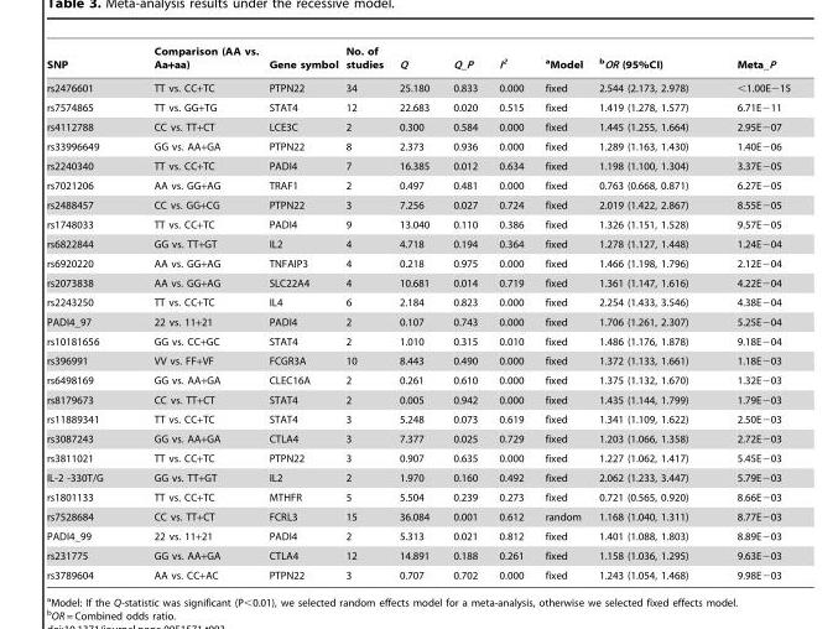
<table><thead><tr><td>SNP</td><td>Comparison (AA vs. Aa+aa)</td><td>Gene symbol</td><td>No. of studies</td><td>Q</td><td>Q_P</td><td>I<sup>2</sup></td><td>aModel</td><td>bOR (95%CI)</td><td>Meta_P</td></tr></thead><tbody><tr><td>rs2476601</td><td>TT vs. CC+TC</td><td>PTPN22</td><td>34</td><td>25.180</td><td>0.833</td><td>0.000</td><td>fixed</td><td>2.544 (2.173, 2.978)</td><td>&lt;1.00E−15</td></tr><tr><td>rs7574865</td><td>TT vs. GG+TG</td><td>STAT4</td><td>12</td><td>22.683</td><td>0.020</td><td>0.515</td><td>fixed</td><td>1.419 (1.278, 1.577)</td><td>6.71E−11</td></tr><tr><td>rs4112788</td><td>CC vs. TT+CT</td><td>LCE3C</td><td>2</td><td>0.300</td><td>0.584</td><td>0.000</td><td>fixed</td><td>1.445 (1.255, 1.664)</td><td>2.95E−07</td></tr><tr><td>rs33996649</td><td>GG vs. AA+GA</td><td>PTPN22</td><td>8</td><td>2.373</td><td>0.936</td><td>0.000</td><td>fixed</td><td>1.289 (1.163, 1.430)</td><td>1.40E−06</td></tr><tr><td>rs2240340</td><td>TT vs. CC+TC</td><td>PADI4</td><td>7</td><td>16.385</td><td>0.012</td><td>0.634</td><td>fixed</td><td>1.198 (1.100, 1.304)</td><td>3.37E−05</td></tr><tr><td>rs7021206</td><td>AA vs. GG+AG</td><td>TRAF1</td><td>2</td><td>0.497</td><td>0.481</td><td>0.000</td><td>fixed</td><td>0.763 (0.668, 0.871)</td><td>6.27E−05</td></tr><tr><td>rs2488457</td><td>CC vs. GG+CG</td><td>PTPN22</td><td>3</td><td>7.256</td><td>0.027</td><td>0.724</td><td>fixed</td><td>2.019 (1.422, 2.867)</td><td>8.55E−05</td></tr><tr><td>rs1748033</td><td>TT vs. CC+TC</td><td>PADI4</td><td>9</td><td>13.040</td><td>0.110</td><td>0.386</td><td>fixed</td><td>1.326 (1.151, 1.528)</td><td>9.57E−05</td></tr><tr><td>rs6822844</td><td>GG vs. TT+GT</td><td>IL2</td><td>4</td><td>4.718</td><td>0.194</td><td>0.364</td><td>fixed</td><td>1.278 (1.127, 1.448)</td><td>1.24E−04</td></tr><tr><td>rs6920220</td><td>AA vs. GG+AG</td><td>TNFAIP3</td><td>4</td><td>0.218</td><td>0.975</td><td>0.000</td><td>fixed</td><td>1.466 (1.198, 1.796)</td><td>2.12E−04</td></tr><tr><td>rs2073838</td><td>AA vs. GG+AG</td><td>SLC22A4</td><td>4</td><td>10.681</td><td>0.014</td><td>0.719</td><td>fixed</td><td>1.361 (1.147, 1.616)</td><td>4.22E−04</td></tr><tr><td>rs2243250</td><td>TT vs. CC+TC</td><td>IL4</td><td>6</td><td>2.184</td><td>0.823</td><td>0.000</td><td>fixed</td><td>2.254 (1.433, 3.546)</td><td>4.38E−04</td></tr><tr><td>PADI4_97</td><td>22 vs. 11+21</td><td>PADI4</td><td>2</td><td>0.107</td><td>0.743</td><td>0.000</td><td>fixed</td><td>1.706 (1.261, 2.307)</td><td>5.25E−04</td></tr><tr><td>rs10181656</td><td>GG vs. CC+GC</td><td>STAT4</td><td>2</td><td>1.010</td><td>0.315</td><td>0.010</td><td>fixed</td><td>1.486 (1.176, 1.878)</td><td>9.18E−04</td></tr><tr><td>rs396991</td><td>VV vs. FF+VF</td><td>FCGR3A</td><td>10</td><td>8.443</td><td>0.490</td><td>0.000</td><td>fixed</td><td>1.372 (1.133, 1.661)</td><td>1.18E−03</td></tr><tr><td>rs6498169</td><td>GG vs. AA+GA</td><td>CLEC16A</td><td>2</td><td>0.261</td><td>0.610</td><td>0.000</td><td>fixed</td><td>1.375 (1.132, 1.670)</td><td>1.32E−03</td></tr><tr><td>rs8179673</td><td>CC vs. TT+CT</td><td>STAT4</td><td>2</td><td>0.005</td><td>0.942</td><td>0.000</td><td>fixed</td><td>1.435 (1.144, 1.799)</td><td>1.79E−03</td></tr><tr><td>rs11889341</td><td>TT vs. CC+TC</td><td>STAT4</td><td>3</td><td>5.248</td><td>0.073</td><td>0.619</td><td>fixed</td><td>1.341 (1.109, 1.622)</td><td>2.50E−03</td></tr><tr><td>rs3087243</td><td>GG vs. AA+GA</td><td>CTLA4</td><td>3</td><td>7.377</td><td>0.025</td><td>0.729</td><td>fixed</td><td>1.203 (1.066, 1.358)</td><td>2.72E−03</td></tr><tr><td>rs3811021</td><td>TT vs. CC+TC</td><td>PTPN22</td><td>3</td><td>0.907</td><td>0.635</td><td>0.000</td><td>fixed</td><td>1.227 (1.062, 1.417)</td><td>5.45E−03</td></tr><tr><td>IL-2 -330T/G</td><td>GG vs. TT+GT</td><td>IL2</td><td>2</td><td>1.970</td><td>0.160</td><td>0.492</td><td>fixed</td><td>2.062 (1.233, 3.447)</td><td>5.79E−03</td></tr><tr><td>rs1801133</td><td>TT vs. CC+TC</td><td>MTHFR</td><td>5</td><td>5.504</td><td>0.239</td><td>0.273</td><td>fixed</td><td>0.721 (0.565, 0.920)</td><td>8.66E−03</td></tr><tr><td>rs7528684</td><td>CC vs. TT+CT</td><td>FCRL3</td><td>15</td><td>36.084</td><td>0.001</td><td>0.612</td><td>random</td><td>1.168 (1.040, 1.311)</td><td>8.77E−03</td></tr><tr><td>PADI4_99</td><td>22 vs. 11+21</td><td>PADI4</td><td>2</td><td>5.313</td><td>0.021</td><td>0.812</td><td>fixed</td><td>1.401 (1.088, 1.803)</td><td>8.89E−03</td></tr><tr><td>rs231775</td><td>GG vs. AA+GA</td><td>CTLA4</td><td>12</td><td>14.891</td><td>0.188</td><td>0.261</td><td>fixed</td><td>1.158 (1.036, 1.295)</td><td>9.63E−03</td></tr><tr><td>rs3789604</td><td>AA vs. CC+AC</td><td>PTPN22</td><td>3</td><td>0.707</td><td>0.702</td><td>0.000</td><td>fixed</td><td>1.243 (1.054, 1.468)</td><td>9.98E−03</td></tr></tbody></table>